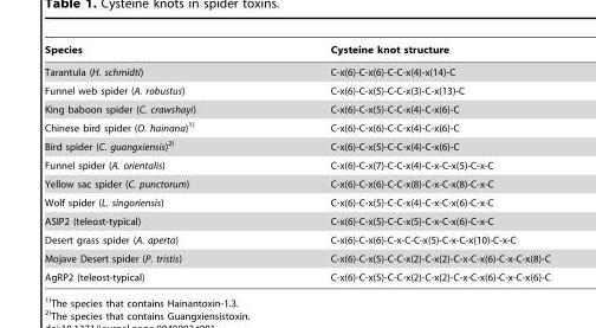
<table><thead><tr><td>Species</td><td>Cysteine knot structure</td></tr></thead><tbody><tr><td>Tarantula (H. schmidti)</td><td>C-x(6)-C-x(6)-C-C-x(4)-x(14)-C</td></tr><tr><td>Funnel web spider (A. robustus)</td><td>C-x(6)-C-x(5)-C-C-x(3)-C-x(13)-C</td></tr><tr><td>King baboon spider (C. crawshayi)</td><td>C-x(6)-C-x(5)-C-C-x(4)-C-x(6)-C</td></tr><tr><td>Chinese bird spider (O. hainana)<sup>1)</sup></td><td>C-x(6)-C-x(6)-C-C-x(4)-C-x(6)-C</td></tr><tr><td>Bird spider (C. guangxiensis)<sup>2)</sup></td><td>C-x(6)-C-x(5)-C-C-x(4)-C-x(6)-C</td></tr><tr><td>Funnel spider (A. orientalis)</td><td>C-x(6)-C-x(7)-C-C-x(4)-C-x-C-x(5)-C-x-C</td></tr><tr><td>Yellow sac spider (C. punctorum)</td><td>C-x(6)-C-x(6)-C-C-x(8)-C-x-C-x(8)-C-x-C</td></tr><tr><td>Wolf spider (L. singoriensis)</td><td>C-x(6)-C-x(5)-C-C-x(4)-C-x-C-x(6)-C-x-C</td></tr><tr><td>ASIP2 (teleost-typical)</td><td>C-x(6)-C-x(5)-C-C-x(5)-C-x-C-x(6)-C-x-C</td></tr><tr><td>Desert grass spider (A. aperta)</td><td>C-x(6)-C-x(6)-C-x-C-C-x(5)-C-x-C-x(10)-C-x-C</td></tr><tr><td>Mojave Desert spider (P. tristis)</td><td>C-x(6)-C-x(5)-C-C-x(2)-C-x(2)-C-x-C-x(6)-C-x-C-x(8)-C</td></tr><tr><td>AgRP2 (teleost-typical)</td><td>C-x(6)-C-x(5)-C-C-x(2)-C-x(2)-C-x-C-x(6)-C-x-C-x(6)-C</td></tr></tbody></table>